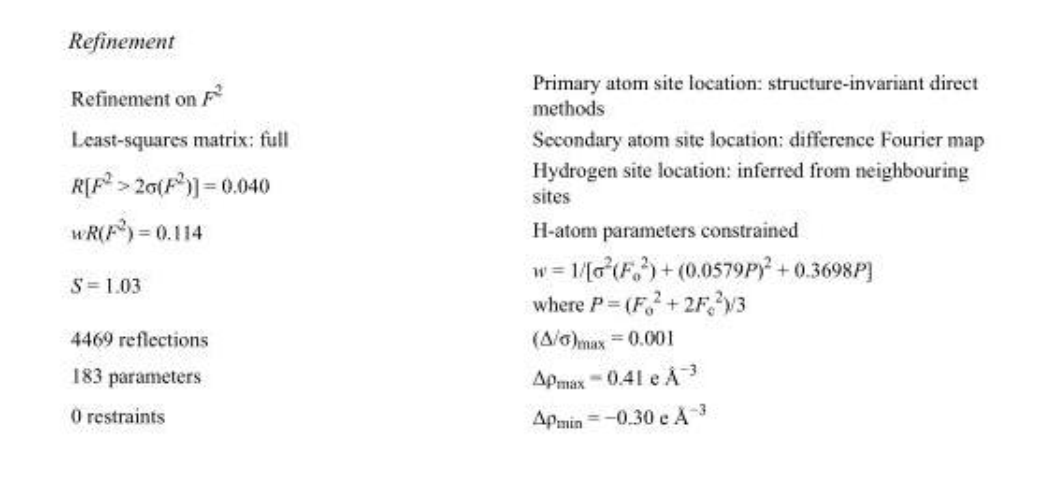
<table><tbody><tr><td>Refinement on F<sup>2</sup></td><td>Primary atom site location: structure-invariant direct methods</td></tr><tr><td>Least-squares matrix: full</td><td>Secondary atom site location: difference Fourier map</td></tr><tr><td>R[F<sup>2</sup> &gt; 2σ(F<sup>2</sup>)] = 0.040</td><td>Hydrogen site location: inferred from neighbouring sites</td></tr><tr><td>wR(F<sup>2</sup>) = 0.114</td><td>H-atom parameters constrained</td></tr><tr><td>S = 1.03</td><td>w = 1/[σ<sup>2</sup>(F<sub>o</sub> <sup>2</sup>) + (0.0579P)<sup>2</sup> + 0.3698P] where P = (F<sub>o</sub> <sup>2</sup> + 2F<sub>c</sub> <sup>2</sup>)/3</td></tr><tr><td>4469 reflections</td><td>(Δ/σ)<sub>max</sub> = 0.001</td></tr><tr><td>183 parameters</td><td>Δρ<sub>max</sub> = 0.41 e Å<sup>−3</sup></td></tr><tr><td>0 restraints</td><td>Δρ<sub>min</sub> = −0.30 e Å<sup>−3</sup></td></tr></tbody></table>